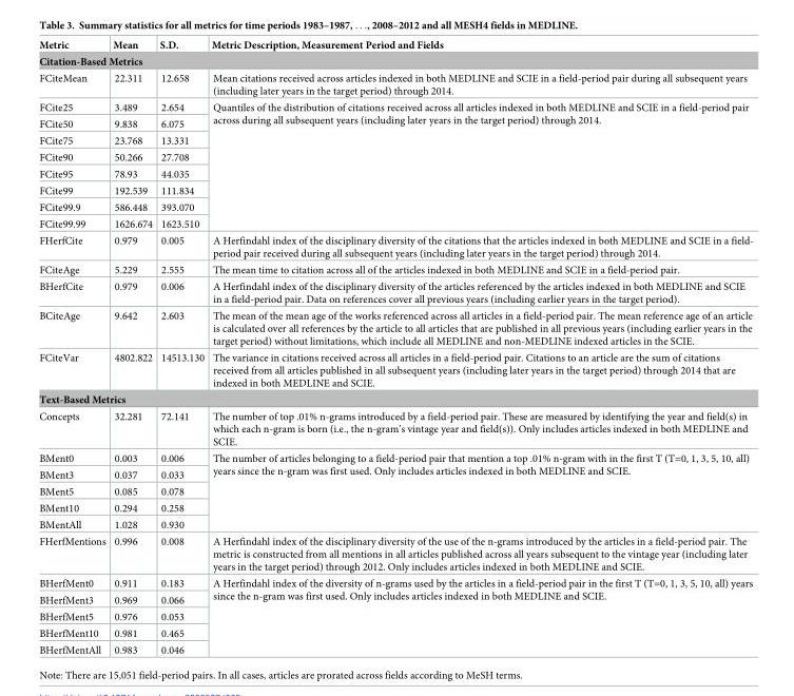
<table><thead><tr><td>Metric</td><td>Mean</td><td>S.D.</td><td>Metric Description, Measurement Period and Fields</td></tr></thead><tbody><tr><td colspan="4">Citation-Based Metrics</td></tr><tr><td>FCiteMean</td><td>22.311</td><td>12.658</td><td>Mean citations received across articles indexed in both MEDLINE and SCIE in a field-period pair during all subsequent years (including later years in the target period) through 2014.</td></tr><tr><td>FCite25</td><td>3.489</td><td>2.654</td><td rowspan="8">Quantiles of the distribution of citations received across all articles indexed in both MEDLINE and SCIE in a field-period pair across during all subsequent years (including later years in the target period) through 2014.</td></tr><tr><td>FCite50</td><td>9.838</td><td>6.075</td></tr><tr><td>FCite75</td><td>23.768</td><td>13.331</td></tr><tr><td>FCite90</td><td>50.266</td><td>27.708</td></tr><tr><td>FCite95</td><td>78.93</td><td>44.035</td></tr><tr><td>FCite99</td><td>192.539</td><td>111.834</td></tr><tr><td>FCite99.9</td><td>586.448</td><td>393.070</td></tr><tr><td>FCite99.99</td><td>1626.674</td><td>1623.510</td></tr><tr><td>FHerfCite</td><td>0.979</td><td>0.005</td><td>A Herfindahl index of the disciplinary diversity of the citations that the articles indexed in both MEDLINE and SCIE in a field- period pair received during all subsequent years (including later years in the target period) through 2014.</td></tr><tr><td>FCiteAge</td><td>5.229</td><td>2.555</td><td>The mean time to citation across all of the articles indexed in both MEDLINE and SCIE in a field-period pair.</td></tr><tr><td>BHerfCite</td><td>0.979</td><td>0.006</td><td>A Herfindahl index of the disciplinary diversity of the articles referenced by the articles indexed in both MEDLINE and SCIE in a field-period pair. Data on references cover all previous years (including earlier years in the target period).</td></tr><tr><td>BCiteAge</td><td>9.642</td><td>2.603</td><td>The mean of the mean age of the works referenced across all articles in a field-period pair. The mean reference age of an article is calculated over all references by the article to all articles that are published in all previous years (including earlier years in the target period) without limitations, which include all MEDLINE and non-MEDLINE indexed articles in the SCIE.</td></tr><tr><td>FCiteVar</td><td>4802.822</td><td>14513.130</td><td>The variance in citations received across all articles in a field-period pair. Citations to an article are the sum of citations received from all articles published in all subsequent years (including later years in the target period) through 2014 that are indexed in both MEDLINE and SCIE.</td></tr><tr><td colspan="4">Text-Based Metrics</td></tr><tr><td>Concepts</td><td>32.281</td><td>72.141</td><td>The number of top .01% n-grams introduced by a field-period pair. These are measured by identifying the year and field(s) in which each n-gram is born (i.e., the n-gram’s vintage year and field(s)). Only includes articles indexed in both MEDLINE and SCIE.</td></tr><tr><td>BMent0</td><td>0.003</td><td>0.006</td><td rowspan="5">The number of articles belonging to a field-period pair that mention a top .01% n-gram with in the first T (T=0, 1, 3, 5, 10, all) years since the n-gram was first used. Only includes articles indexed in both MEDLINE and SCIE.</td></tr><tr><td>BMent3</td><td>0.037</td><td>0.033</td></tr><tr><td>BMent5</td><td>0.085</td><td>0.078</td></tr><tr><td>BMent10</td><td>0.294</td><td>0.258</td></tr><tr><td>BMentAll</td><td>1.028</td><td>0.930</td></tr><tr><td>FHerfMentions</td><td>0.996</td><td>0.008</td><td>A Herfindahl index of the disciplinary diversity of the use of the n-grams introduced by the articles in a field-period pair. The metric is constructed from all mentions in all articles published across all years subsequent to the vintage year (including later years in the target period) through 2012. Only includes articles indexed in both MEDLINE and SCIE.</td></tr><tr><td>BHerfMent0</td><td>0.911</td><td>0.183</td><td rowspan="5">A Herfindahl index of the diversity of n-grams used by the articles in a field-period pair in the first T (T=0, 1, 3, 5, 10, all) years since the n-gram was first used. Only includes articles indexed in both MEDLINE and SCIE.</td></tr><tr><td>BHerfMent3</td><td>0.969</td><td>0.066</td></tr><tr><td>BHerfMent5</td><td>0.976</td><td>0.053</td></tr><tr><td>BHerfMent10</td><td>0.981</td><td>0.465</td></tr><tr><td>BHerfMentAll</td><td>0.983</td><td>0.046</td></tr></tbody></table>